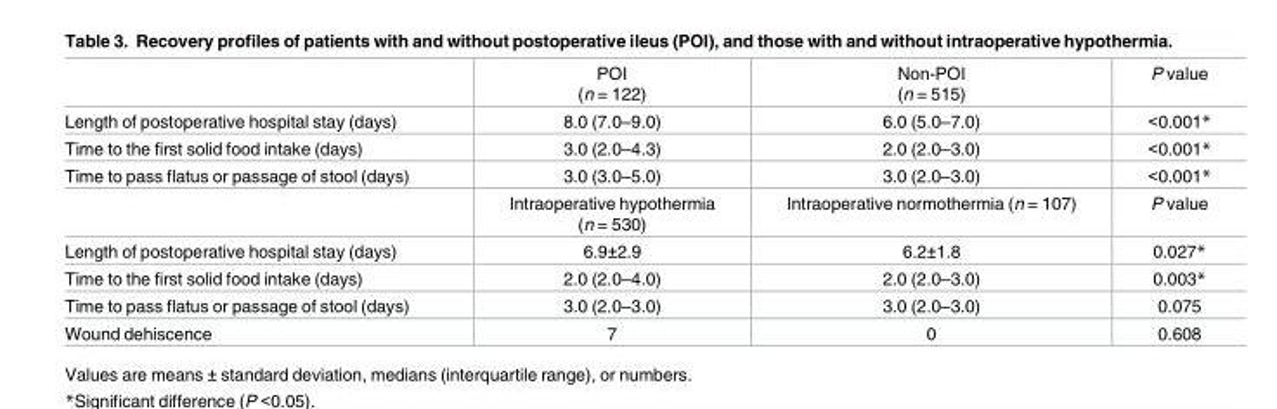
<table><thead><tr><td></td><td>POI (n = 122)</td><td>Non-POI (n = 515)</td><td>P value</td></tr></thead><tbody><tr><td>Length of postoperative hospital stay (days)</td><td>8.0 (7.0–9.0)</td><td>6.0 (5.0–7.0)</td><td>&lt;0.001*</td></tr><tr><td>Time to the first solid food intake (days)</td><td>3.0 (2.0–4.3)</td><td>2.0 (2.0–3.0)</td><td>&lt;0.001*</td></tr><tr><td rowspan="2">Time to pass flatus or passage of stool (days)</td><td>3.0 (3.0–5.0)</td><td>3.0 (2.0–3.0)</td><td>&lt;0.001*</td></tr><tr><td>Intraoperative hypothermia (n = 530)</td><td>Intraoperative normothermia (n = 107)</td><td>P value</td></tr><tr><td>Length of postoperative hospital stay (days)</td><td>6.9±2.9</td><td>6.2±1.8</td><td>0.027*</td></tr><tr><td>Time to the first solid food intake (days)</td><td>2.0 (2.0–4.0)</td><td>2.0 (2.0–3.0)</td><td>0.003*</td></tr><tr><td>Time to pass flatus or passage of stool (days)</td><td>3.0 (2.0–3.0)</td><td>3.0 (2.0–3.0)</td><td>0.075</td></tr><tr><td>Wound dehiscence</td><td>7</td><td>0</td><td>0.608</td></tr></tbody></table>